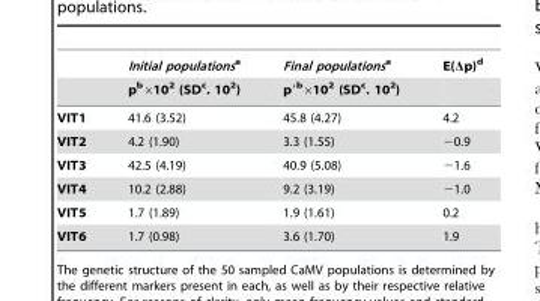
<table><thead><tr><td rowspan="2"></td><td rowspan="2">Initial populationsa p<sup>b</sup>×10<sup>2</sup> (SD<sup>c</sup>. 10<sup>2</sup>)</td><td rowspan="2">Final populationsa p′<sup>b</sup>×10<sup>2</sup> (SD<sup>c</sup>. 10<sup>2</sup>)</td><td rowspan="2">E(Δp)<sup>d</sup></td></tr><tr></tr></thead><tbody><tr><td>VIT1</td><td>41.6 (3.52)</td><td>45.8 (4.27)</td><td>4.2</td></tr><tr><td>VIT2</td><td>4.2 (1.90)</td><td>3.3 (1.55)</td><td>−0.9</td></tr><tr><td>VIT3</td><td>42.5 (4.19)</td><td>40.9 (5.08)</td><td>−1.6</td></tr><tr><td>VIT4</td><td>10.2 (2.88)</td><td>9.2 (3.19)</td><td>−1.0</td></tr><tr><td>VIT5</td><td>1.7 (1.89)</td><td>1.9 (1.61)</td><td>0.2</td></tr><tr><td>VIT6</td><td>1.7 (0.98)</td><td>3.6 (1.70)</td><td>1.9</td></tr></tbody></table>